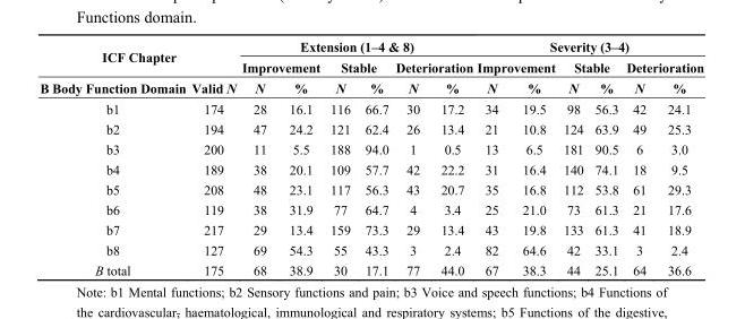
<table><thead><tr><td rowspan="2" colspan="2">ICF Chapter</td><td colspan="6">Extension (1–4 &amp; 8)</td><td colspan="6">Severity (3–4)</td></tr><tr><td colspan="2">Improvement</td><td colspan="2">Stable</td><td colspan="2">Deterioration</td><td colspan="2">Improvement</td><td colspan="2">Stable</td><td colspan="2">Deterioration</td></tr><tr><td>B Body Function Domain</td><td>Valid N</td><td>N</td><td>%</td><td>N</td><td>%</td><td>N</td><td>%</td><td>N</td><td>%</td><td>N</td><td>%</td><td>N</td><td>%</td></tr></thead><tbody><tr><td>b1</td><td>174</td><td>28</td><td>16.1</td><td>116</td><td>66.7</td><td>30</td><td>17.2</td><td>34</td><td>19.5</td><td>98</td><td>56.3</td><td>42</td><td>24.1</td></tr><tr><td>b2</td><td>194</td><td>47</td><td>24.2</td><td>121</td><td>62.4</td><td>26</td><td>13.4</td><td>21</td><td>10.8</td><td>124</td><td>63.9</td><td>49</td><td>25.3</td></tr><tr><td>b3</td><td>200</td><td>11</td><td>5.5</td><td>188</td><td>94.0</td><td>1</td><td>0.5</td><td>13</td><td>6.5</td><td>181</td><td>90.5</td><td>6</td><td>3.0</td></tr><tr><td>b4</td><td>189</td><td>38</td><td>20.1</td><td>109</td><td>57.7</td><td>42</td><td>22.2</td><td>31</td><td>16.4</td><td>140</td><td>74.1</td><td>18</td><td>9.5</td></tr><tr><td>b5</td><td>208</td><td>48</td><td>23.1</td><td>117</td><td>56.3</td><td>43</td><td>20.7</td><td>35</td><td>16.8</td><td>112</td><td>53.8</td><td>61</td><td>29.3</td></tr><tr><td>b6</td><td>119</td><td>38</td><td>31.9</td><td>77</td><td>64.7</td><td>4</td><td>3.4</td><td>25</td><td>21.0</td><td>73</td><td>61.3</td><td>21</td><td>17.6</td></tr><tr><td>b7</td><td>217</td><td>29</td><td>13.4</td><td>159</td><td>73.3</td><td>29</td><td>13.4</td><td>43</td><td>19.8</td><td>133</td><td>61.3</td><td>41</td><td>18.9</td></tr><tr><td>b8</td><td>127</td><td>69</td><td>54.3</td><td>55</td><td>43.3</td><td>3</td><td>2.4</td><td>82</td><td>64.6</td><td>42</td><td>33.1</td><td>3</td><td>2.4</td></tr><tr><td>B total</td><td>175</td><td>68</td><td>38.9</td><td>30</td><td>17.1</td><td>77</td><td>44.0</td><td>67</td><td>38.3</td><td>44</td><td>25.1</td><td>64</td><td>36.6</td></tr></tbody></table>